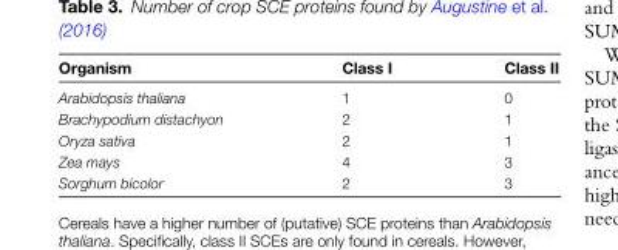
<table><thead><tr><td>Organism</td><td>Class I</td><td>Class II</td></tr></thead><tbody><tr><td>Arabidopsis thaliana</td><td>1</td><td>0</td></tr><tr><td>Brachypodium distachyon</td><td>2</td><td>1</td></tr><tr><td>Oryza sativa</td><td>2</td><td>1</td></tr><tr><td>Zea mays</td><td>4</td><td>3</td></tr><tr><td>Sorghum bicolor</td><td>2</td><td>3</td></tr></tbody></table>